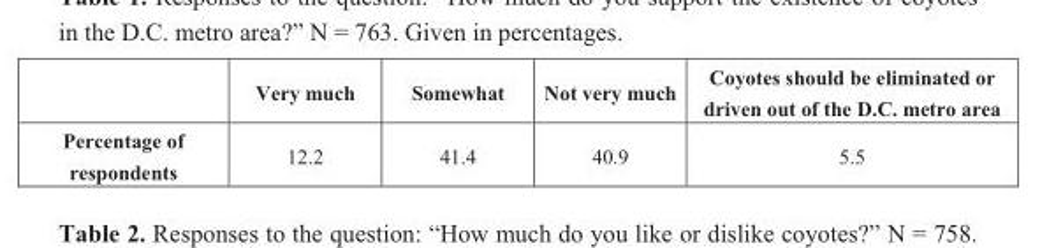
<table><thead><tr><td></td><td>Very much</td><td>Somewhat</td><td>Not very much</td><td>Coyotes should be eliminated or driven out of the D.C. metro area</td></tr></thead><tbody><tr><td>Percentage of respondents</td><td>12.2</td><td>41.4</td><td>40.9</td><td>5.5</td></tr></tbody></table>